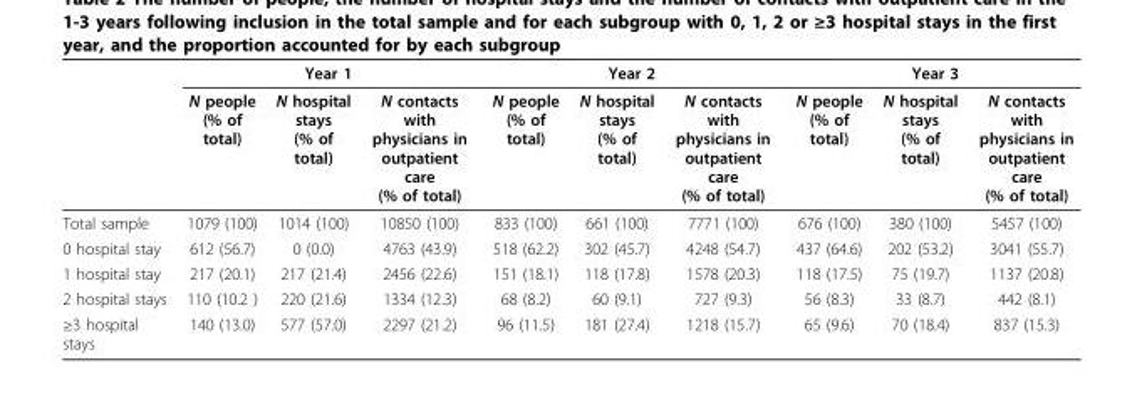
<table><thead><tr><td rowspan="2"></td><td colspan="3">Year 1</td><td colspan="3">Year 2</td><td colspan="3">Year 3</td></tr><tr><td>N people (% of total)</td><td>N hospital stays (% of total)</td><td>N contacts with physicians in outpatient care (% of total)</td><td>N people (% of total)</td><td>N hospital stays (% of total)</td><td>N contacts with physicians in outpatient care (% of total)</td><td>N people (% of total)</td><td>N hospital stays (% of total)</td><td>N contacts with physicians in outpatient care (% of total)</td></tr></thead><tbody><tr><td>Total sample</td><td>1079 (100)</td><td>1014 (100)</td><td>10850 (100)</td><td>833 (100)</td><td>661 (100)</td><td>7771 (100)</td><td>676 (100)</td><td>380 (100)</td><td>5457 (100)</td></tr><tr><td>0 hospital stay</td><td>612 (56.7)</td><td>0 (0.0)</td><td>4763 (43.9)</td><td>518 (62.2)</td><td>302 (45.7)</td><td>4248 (54.7)</td><td>437 (64.6)</td><td>202 (53.2)</td><td>3041 (55.7)</td></tr><tr><td>1 hospital stay</td><td>217 (20.1)</td><td>217 (21.4)</td><td>2456 (22.6)</td><td>151 (18.1)</td><td>118 (17.8)</td><td>1578 (20.3)</td><td>118 (17.5)</td><td>75 (19.7)</td><td>1137 (20.8)</td></tr><tr><td>2 hospital stays</td><td>110 (10.2 )</td><td>220 (21.6)</td><td>1334 (12.3)</td><td>68 (8.2)</td><td>60 (9.1)</td><td>727 (9.3)</td><td>56 (8.3)</td><td>33 (8.7)</td><td>442 (8.1)</td></tr><tr><td>≥3 hospital stays</td><td>140 (13.0)</td><td>577 (57.0)</td><td>2297 (21.2)</td><td>96 (11.5)</td><td>181 (27.4)</td><td>1218 (15.7)</td><td>65 (9.6)</td><td>70 (18.4)</td><td>837 (15.3)</td></tr></tbody></table>